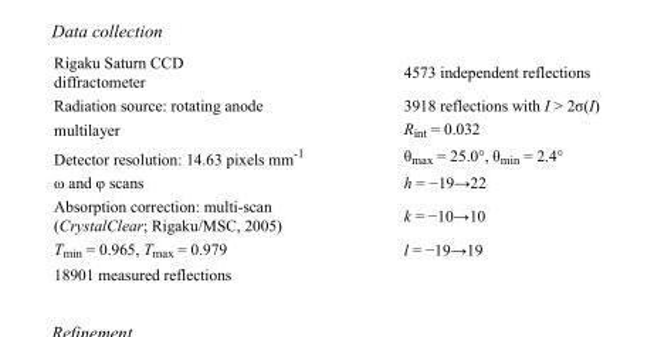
<table><tbody><tr><td>Rigaku Saturn CCD diffractometer</td><td>4573 independent reflections</td></tr><tr><td>Radiation source: rotating anode</td><td>3918 reflections with I &gt; 2σ(I)</td></tr><tr><td>multilayer</td><td>R<sub>int</sub> = 0.032</td></tr><tr><td>Detector resolution: 14.63 pixels mm<sup>-1</sup></td><td>θ<sub>max</sub> = 25.0°, θ<sub>min</sub> = 2.4°</td></tr><tr><td>ω and φ scans</td><td>h = −19→22</td></tr><tr><td>Absorption correction: multi-scan (CrystalClear; Rigaku/MSC, 2005)</td><td>k = −10→10</td></tr><tr><td>T<sub>min</sub> = 0.965, T<sub>max</sub> = 0.979</td><td>l = −19→19</td></tr><tr><td>18901 measured reflections</td><td></td></tr></tbody></table>